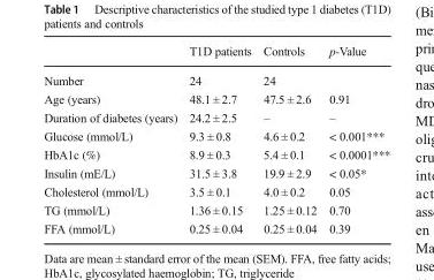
<table><thead><tr><td></td><td>T1D patients</td><td>Controls</td><td>p-Value</td></tr></thead><tbody><tr><td>Number</td><td>24</td><td>24</td><td></td></tr><tr><td>Age (years)</td><td>48.1 ± 2.7</td><td>47.5 ± 2.6</td><td>0.91</td></tr><tr><td>Duration of diabetes (years)</td><td>24.2 ± 2.5</td><td>–</td><td>–</td></tr><tr><td>Glucose (mmol/L)</td><td>9.3 ± 0.8</td><td>4.6 ± 0.2</td><td>&lt; 0.001***</td></tr><tr><td>HbA1c (%)</td><td>8.9 ± 0.3</td><td>5.4 ± 0.1</td><td>&lt; 0.0001***</td></tr><tr><td>Insulin (mE/L)</td><td>31.5 ± 3.8</td><td>19.9 ± 2.9</td><td>&lt; 0.05*</td></tr><tr><td>Cholesterol (mmol/L)</td><td>3.5 ± 0.1</td><td>4.0 ± 0.2</td><td>0.05</td></tr><tr><td>TG (mmol/L)</td><td>1.36 ± 0.15</td><td>1.25 ± 0.12</td><td>0.70</td></tr><tr><td>FFA (mmol/L)</td><td>0.25 ± 0.04</td><td>0.25 ± 0.04</td><td>0.39</td></tr></tbody></table>